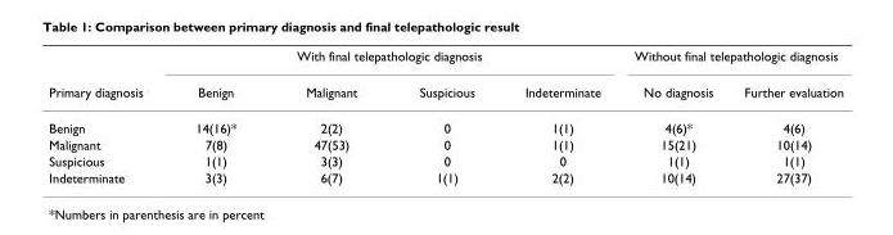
<table><thead><tr><td rowspan="2">Primary diagnosis</td><td colspan="4">With final telepathologic diagnosis</td><td colspan="2">Without final telepathologic diagnosis</td></tr><tr><td>Benign</td><td>Malignant</td><td>Suspicious</td><td>Indeterminate</td><td>No diagnosis</td><td>Further evaluation</td></tr></thead><tbody><tr><td>Benign</td><td>14(16)*</td><td>2(2)</td><td>0</td><td>1(1)</td><td>4(6)*</td><td>4(6)</td></tr><tr><td>Malignant</td><td>7(8)</td><td>47(53)</td><td>0</td><td>1(1)</td><td>15(21)</td><td>10(14)</td></tr><tr><td>Suspicious</td><td>1(1)</td><td>3(3)</td><td>0</td><td>0</td><td>1(1)</td><td>1(1)</td></tr><tr><td>Indeterminate</td><td>3(3)</td><td>6(7)</td><td>1(1)</td><td>2(2)</td><td>10(14)</td><td>27(37)</td></tr></tbody></table>